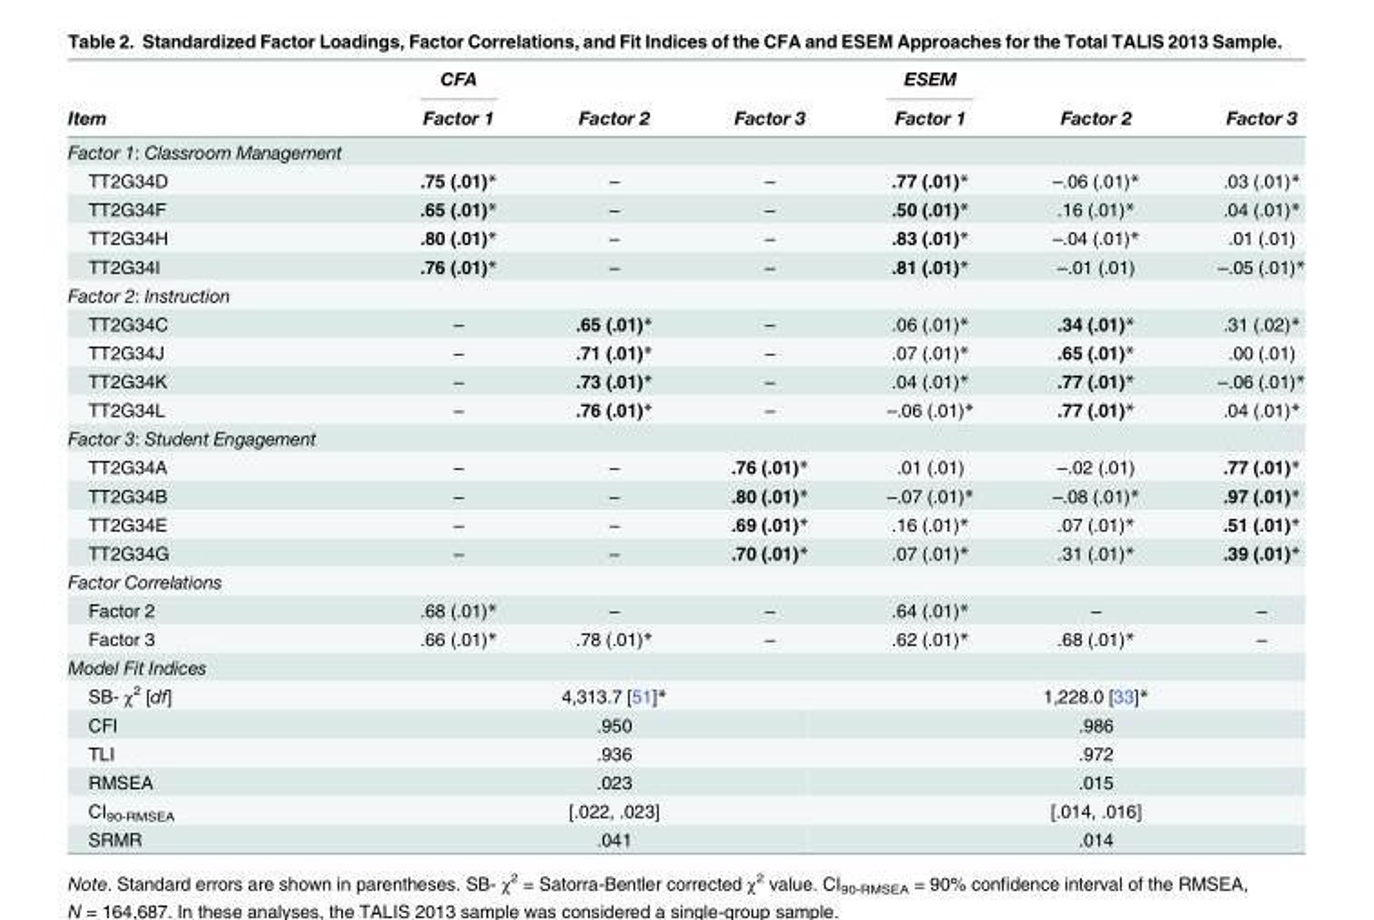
<table><thead><tr><td rowspan="2">Item</td><td rowspan="2">CFA Factor 1</td><td rowspan="2">Factor 2</td><td rowspan="2">Factor 3</td><td rowspan="2">ESEM Factor 1</td><td rowspan="2">Factor 2</td><td rowspan="2">Factor 3</td></tr><tr></tr></thead><tbody><tr><td colspan="7">Factor 1: Classroom Management</td></tr><tr><td>TT2G34D</td><td>.75 (.01)*</td><td>–</td><td>–</td><td>.77 (.01)*</td><td>–.06 (.01)*</td><td>.03 (.01)*</td></tr><tr><td>TT2G34F</td><td>.65 (.01)*</td><td>–</td><td>–</td><td>.50 (.01)*</td><td>.16 (.01)*</td><td>.04 (.01)*</td></tr><tr><td>TT2G34H</td><td>.80 (.01)*</td><td>–</td><td>–</td><td>.83 (.01)*</td><td>–.04 (.01)*</td><td>.01 (.01)</td></tr><tr><td>TT2G34I</td><td>.76 (.01)*</td><td>–</td><td>–</td><td>.81 (.01)*</td><td>–.01 (.01)</td><td>–.05 (.01)*</td></tr><tr><td colspan="7">Factor 2: Instruction</td></tr><tr><td>TT2G34C</td><td>–</td><td>.65 (.01)*</td><td>–</td><td>.06 (.01)*</td><td>.34 (.01)*</td><td>.31 (.02)*</td></tr><tr><td>TT2G34J</td><td>–</td><td>.71 (.01)*</td><td>–</td><td>.07 (.01)*</td><td>.65 (.01)*</td><td>.00 (.01)</td></tr><tr><td>TT2G34K</td><td>–</td><td>.73 (.01)*</td><td>–</td><td>.04 (.01)*</td><td>.77 (.01)*</td><td>–.06 (.01)*</td></tr><tr><td>TT2G34L</td><td>–</td><td>.76 (.01)*</td><td>–</td><td>–.06 (.01)*</td><td>.77 (.01)*</td><td>.04 (.01)*</td></tr><tr><td colspan="7">Factor 3: Student Engagement</td></tr><tr><td>TT2G34A</td><td>–</td><td>–</td><td>.76 (.01)*</td><td>.01 (.01)</td><td>–.02 (.01)</td><td>.77 (.01)*</td></tr><tr><td>TT2G34B</td><td>–</td><td>–</td><td>.80 (.01)*</td><td>–.07 (.01)*</td><td>–.08 (.01)*</td><td>.97 (.01)*</td></tr><tr><td>TT2G34E</td><td>–</td><td>–</td><td>.69 (.01)*</td><td>.16 (.01)*</td><td>.07 (.01)*</td><td>.51 (.01)*</td></tr><tr><td>TT2G34G</td><td>–</td><td>–</td><td>.70 (.01)*</td><td>.07 (.01)*</td><td>.31 (.01)*</td><td>.39 (.01)*</td></tr><tr><td colspan="7">Factor Correlations</td></tr><tr><td>Factor 2</td><td>.68 (.01)*</td><td>–</td><td>–</td><td>.64 (.01)*</td><td>–</td><td>–</td></tr><tr><td>Factor 3</td><td>.66 (.01)*</td><td>.78 (.01)*</td><td>–</td><td>.62 (.01)*</td><td>.68 (.01)*</td><td>–</td></tr><tr><td colspan="7">Model Fit Indices</td></tr><tr><td>SB- χ<sup>2</sup> [df]</td><td colspan="3">4,313.7 [51]*</td><td colspan="3">1,228.0 [33]*</td></tr><tr><td>CFI</td><td colspan="3">.950</td><td colspan="3">.986</td></tr><tr><td>TLI</td><td colspan="3">.936</td><td colspan="3">.972</td></tr><tr><td>RMSEA</td><td colspan="3">.023</td><td colspan="3">.015</td></tr><tr><td>CI<sub>90-RMSEA</sub></td><td colspan="3">[.022, .023]</td><td colspan="3">[.014, .016]</td></tr><tr><td>SRMR</td><td colspan="3">.041</td><td colspan="3">.014</td></tr></tbody></table>